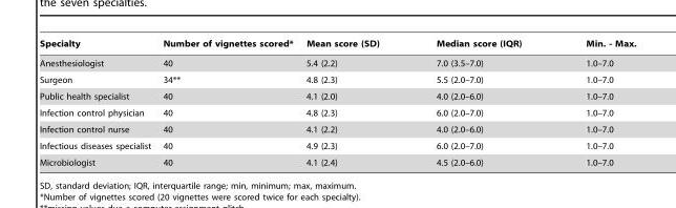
<table><thead><tr><td>Specialty</td><td>Number of vignettes scored*</td><td>Mean score (SD)</td><td>Median score (IQR)</td><td>Min. - Max.</td></tr></thead><tbody><tr><td>Anesthesiologist</td><td>40</td><td>5.4 (2.2)</td><td>7.0 (3.5–7.0)</td><td>1.0–7.0</td></tr><tr><td>Surgeon</td><td>34**</td><td>4.8 (2.3)</td><td>5.5 (2.0–7.0)</td><td>1.0–7.0</td></tr><tr><td>Public health specialist</td><td>40</td><td>4.1 (2.0)</td><td>4.0 (2.0–6.0)</td><td>1.0–7.0</td></tr><tr><td>Infection control physician</td><td>40</td><td>4.8 (2.3)</td><td>6.0 (2.0–7.0)</td><td>1.0–7.0</td></tr><tr><td>Infection control nurse</td><td>40</td><td>4.1 (2.2)</td><td>4.0 (2.0–6.0)</td><td>1.0–7.0</td></tr><tr><td>Infectious diseases specialist</td><td>40</td><td>4.9 (2.3)</td><td>6.0 (2.0–7.0)</td><td>1.0–7.0</td></tr><tr><td>Microbiologist</td><td>40</td><td>4.1 (2.4)</td><td>4.5 (2.0–6.0)</td><td>1.0–7.0</td></tr></tbody></table>